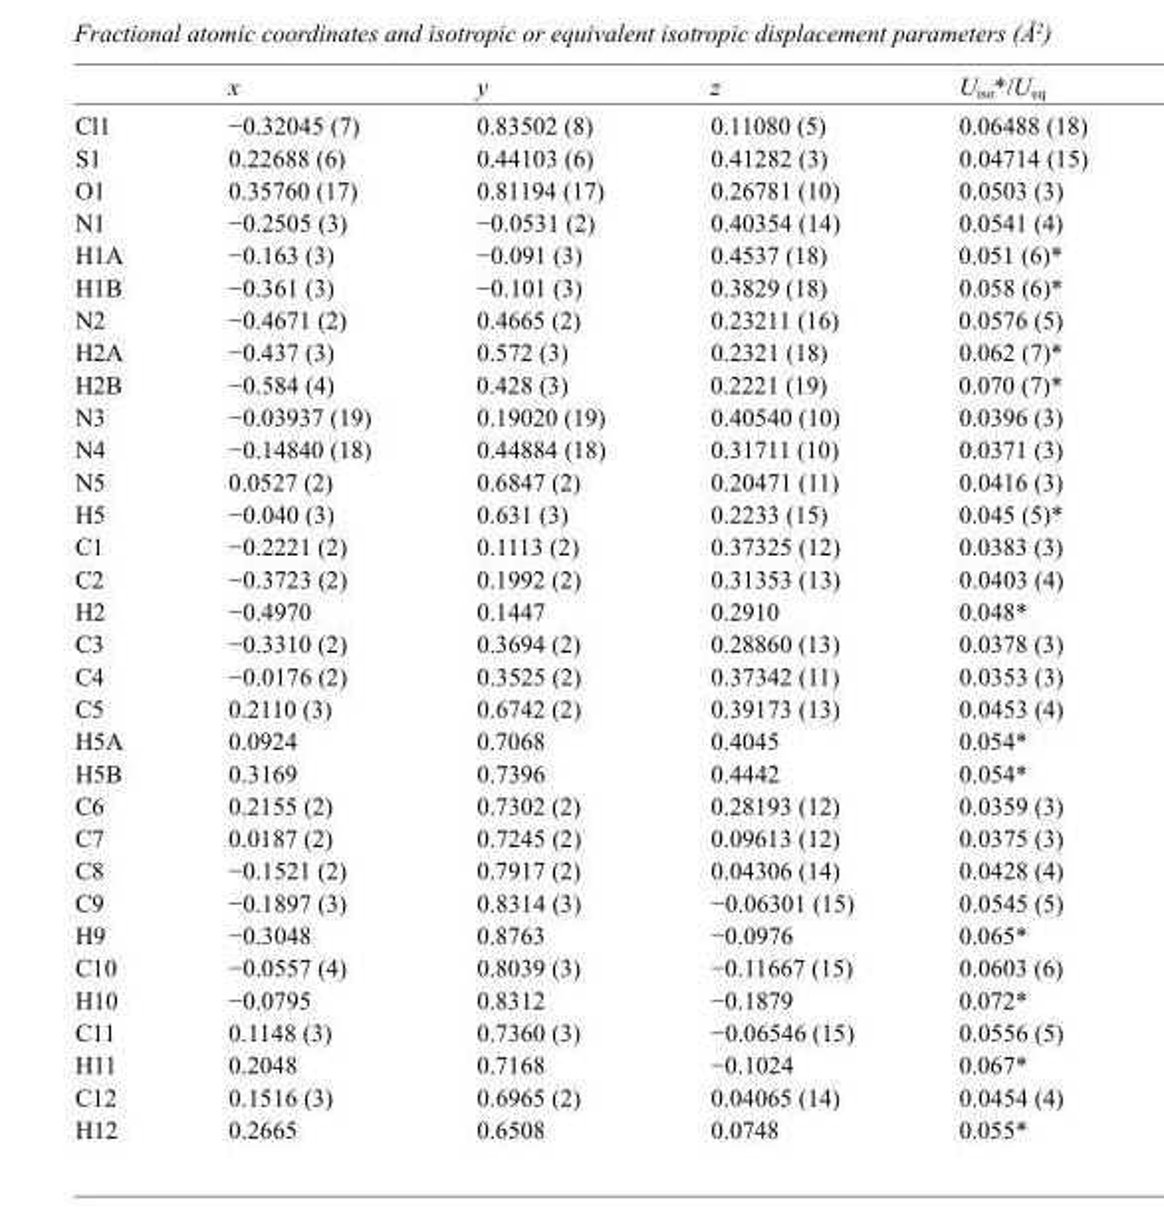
<table><thead><tr><td></td><td>x</td><td>y</td><td>z</td><td>U<sub>iso</sub>*/U<sub>eq</sub></td></tr></thead><tbody><tr><td>Cl1</td><td>−0.32045 (7)</td><td>0.83502 (8)</td><td>0.11080 (5)</td><td>0.06488 (18)</td></tr><tr><td>S1</td><td>0.22688 (6)</td><td>0.44103 (6)</td><td>0.41282 (3)</td><td>0.04714 (15)</td></tr><tr><td>O1</td><td>0.35760 (17)</td><td>0.81194 (17)</td><td>0.26781 (10)</td><td>0.0503 (3)</td></tr><tr><td>N1</td><td>−0.2505 (3)</td><td>−0.0531 (2)</td><td>0.40354 (14)</td><td>0.0541 (4)</td></tr><tr><td>H1A</td><td>−0.163 (3)</td><td>−0.091 (3)</td><td>0.4537 (18)</td><td>0.051 (6)*</td></tr><tr><td>H1B</td><td>−0.361 (3)</td><td>−0.101 (3)</td><td>0.3829 (18)</td><td>0.058 (6)*</td></tr><tr><td>N2</td><td>−0.4671 (2)</td><td>0.4665 (2)</td><td>0.23211 (16)</td><td>0.0576 (5)</td></tr><tr><td>H2A</td><td>−0.437 (3)</td><td>0.572 (3)</td><td>0.2321 (18)</td><td>0.062 (7)*</td></tr><tr><td>H2B</td><td>−0.584 (4)</td><td>0.428 (3)</td><td>0.2221 (19)</td><td>0.070 (7)*</td></tr><tr><td>N3</td><td>−0.03937 (19)</td><td>0.19020 (19)</td><td>0.40540 (10)</td><td>0.0396 (3)</td></tr><tr><td>N4</td><td>−0.14840 (18)</td><td>0.44884 (18)</td><td>0.31711 (10)</td><td>0.0371 (3)</td></tr><tr><td>N5</td><td>0.0527 (2)</td><td>0.6847 (2)</td><td>0.20471 (11)</td><td>0.0416 (3)</td></tr><tr><td>H5</td><td>−0.040 (3)</td><td>0.631 (3)</td><td>0.2233 (15)</td><td>0.045 (5)*</td></tr><tr><td>C1</td><td>−0.2221 (2)</td><td>0.1113 (2)</td><td>0.37325 (12)</td><td>0.0383 (3)</td></tr><tr><td>C2</td><td>−0.3723 (2)</td><td>0.1992 (2)</td><td>0.31353 (13)</td><td>0.0403 (4)</td></tr><tr><td>H2</td><td>−0.4970</td><td>0.1447</td><td>0.2910</td><td>0.048*</td></tr><tr><td>C3</td><td>−0.3310 (2)</td><td>0.3694 (2)</td><td>0.28860 (13)</td><td>0.0378 (3)</td></tr><tr><td>C4</td><td>−0.0176 (2)</td><td>0.3525 (2)</td><td>0.37342 (11)</td><td>0.0353 (3)</td></tr><tr><td>C5</td><td>0.2110 (3)</td><td>0.6742 (2)</td><td>0.39173 (13)</td><td>0.0453 (4)</td></tr><tr><td>H5A</td><td>0.0924</td><td>0.7068</td><td>0.4045</td><td>0.054*</td></tr><tr><td>H5B</td><td>0.3169</td><td>0.7396</td><td>0.4442</td><td>0.054*</td></tr><tr><td>C6</td><td>0.2155 (2)</td><td>0.7302 (2)</td><td>0.28193 (12)</td><td>0.0359 (3)</td></tr><tr><td>C7</td><td>0.0187 (2)</td><td>0.7245 (2)</td><td>0.09613 (12)</td><td>0.0375 (3)</td></tr><tr><td>C8</td><td>−0.1521 (2)</td><td>0.7917 (2)</td><td>0.04306 (14)</td><td>0.0428 (4)</td></tr><tr><td>C9</td><td>−0.1897 (3)</td><td>0.8314 (3)</td><td>−0.06301 (15)</td><td>0.0545 (5)</td></tr><tr><td>H9</td><td>−0.3048</td><td>0.8763</td><td>−0.0976</td><td>0.065*</td></tr><tr><td>C10</td><td>−0.0557 (4)</td><td>0.8039 (3)</td><td>−0.11667 (15)</td><td>0.0603 (6)</td></tr><tr><td>H10</td><td>−0.0795</td><td>0.8312</td><td>−0.1879</td><td>0.072*</td></tr><tr><td>C11</td><td>0.1148 (3)</td><td>0.7360 (3)</td><td>−0.06546 (15)</td><td>0.0556 (5)</td></tr><tr><td>H11</td><td>0.2048</td><td>0.7168</td><td>−0.1024</td><td>0.067*</td></tr><tr><td>C12</td><td>0.1516 (3)</td><td>0.6965 (2)</td><td>0.04065 (14)</td><td>0.0454 (4)</td></tr><tr><td>H12</td><td>0.2665</td><td>0.6508</td><td>0.0748</td><td>0.055*</td></tr></tbody></table>